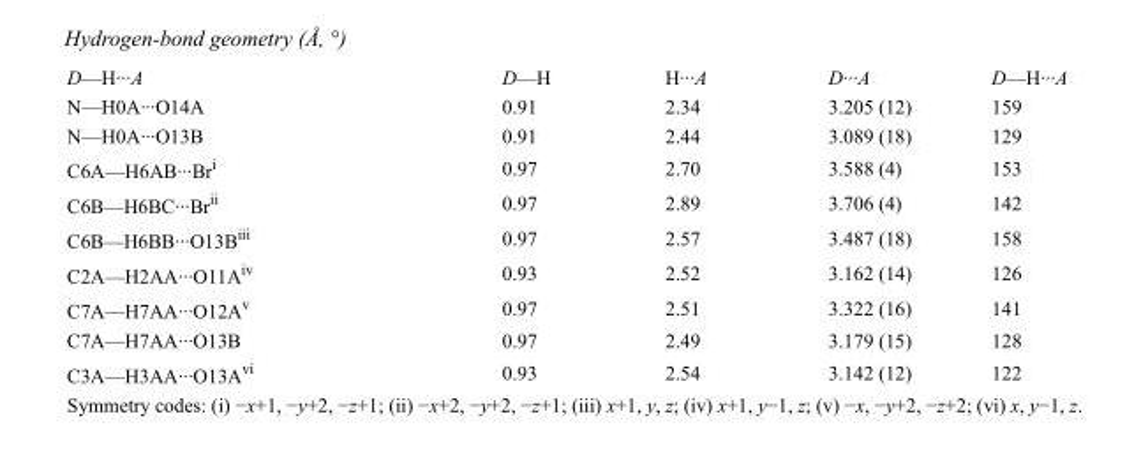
<table><tbody><tr><td>D—H···A</td><td>D—H</td><td>H···A</td><td>D···A</td><td>D—H···A</td></tr><tr><td>N—H0A···O14A</td><td>0.91</td><td>2.34</td><td>3.205 (12)</td><td>159</td></tr><tr><td>N—H0A···O13B</td><td>0.91</td><td>2.44</td><td>3.089 (18)</td><td>129</td></tr><tr><td>C6A—H6AB···Br<sup>i</sup></td><td>0.97</td><td>2.70</td><td>3.588 (4)</td><td>153</td></tr><tr><td>C6B—H6BC···Br<sup>ii</sup></td><td>0.97</td><td>2.89</td><td>3.706 (4)</td><td>142</td></tr><tr><td>C6B—H6BB···O13B<sup>iii</sup></td><td>0.97</td><td>2.57</td><td>3.487 (18)</td><td>158</td></tr><tr><td>C2A—H2AA···O11A<sup>iv</sup></td><td>0.93</td><td>2.52</td><td>3.162 (14)</td><td>126</td></tr><tr><td>C7A—H7AA···O12A<sup>v</sup></td><td>0.97</td><td>2.51</td><td>3.322 (16)</td><td>141</td></tr><tr><td>C7A—H7AA···O13B</td><td>0.97</td><td>2.49</td><td>3.179 (15)</td><td>128</td></tr><tr><td>C3A—H3AA···O13A<sup>vi</sup></td><td>0.93</td><td>2.54</td><td>3.142 (12)</td><td>122</td></tr></tbody></table>